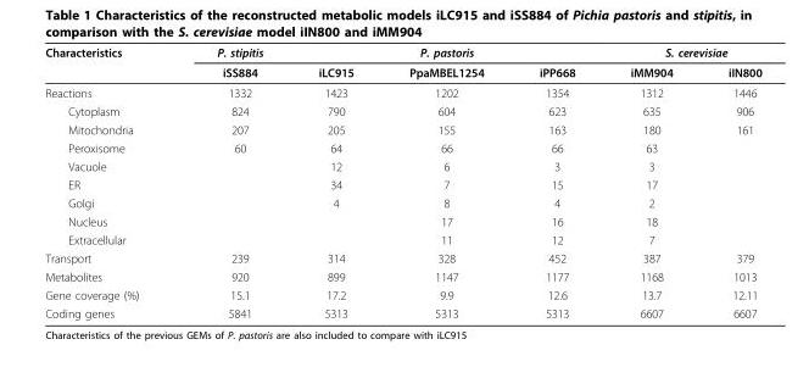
<table><thead><tr><td rowspan="2">Characteristics</td><td rowspan="2">P. stipitis iSS884</td><td colspan="3">P. pastoris</td><td colspan="2">S. cerevisiae</td></tr><tr><td>iLC915</td><td>PpaMBEL1254</td><td>iPP668</td><td>iMM904</td><td>iIN800</td></tr></thead><tbody><tr><td>Reactions</td><td>1332</td><td>1423</td><td>1202</td><td>1354</td><td>1312</td><td>1446</td></tr><tr><td>Cytoplasm</td><td>824</td><td>790</td><td>604</td><td>623</td><td>635</td><td>906</td></tr><tr><td>Mitochondria</td><td>207</td><td>205</td><td>155</td><td>163</td><td>180</td><td>161</td></tr><tr><td>Peroxisome</td><td>60</td><td>64</td><td>66</td><td>66</td><td>63</td><td></td></tr><tr><td>Vacuole</td><td></td><td>12</td><td>6</td><td>3</td><td>3</td><td></td></tr><tr><td>ER</td><td></td><td>34</td><td>7</td><td>15</td><td>17</td><td></td></tr><tr><td>Golgi</td><td></td><td>4</td><td>8</td><td>4</td><td>2</td><td></td></tr><tr><td>Nucleus</td><td></td><td></td><td>17</td><td>16</td><td>18</td><td></td></tr><tr><td>Extracellular</td><td></td><td></td><td>11</td><td>12</td><td>7</td><td></td></tr><tr><td>Transport</td><td>239</td><td>314</td><td>328</td><td>452</td><td>387</td><td>379</td></tr><tr><td>Metabolites</td><td>920</td><td>899</td><td>1147</td><td>1177</td><td>1168</td><td>1013</td></tr><tr><td>Gene coverage (%)</td><td>15.1</td><td>17.2</td><td>9.9</td><td>12.6</td><td>13.7</td><td>12.11</td></tr><tr><td>Coding genes</td><td>5841</td><td>5313</td><td>5313</td><td>5313</td><td>6607</td><td>6607</td></tr></tbody></table>